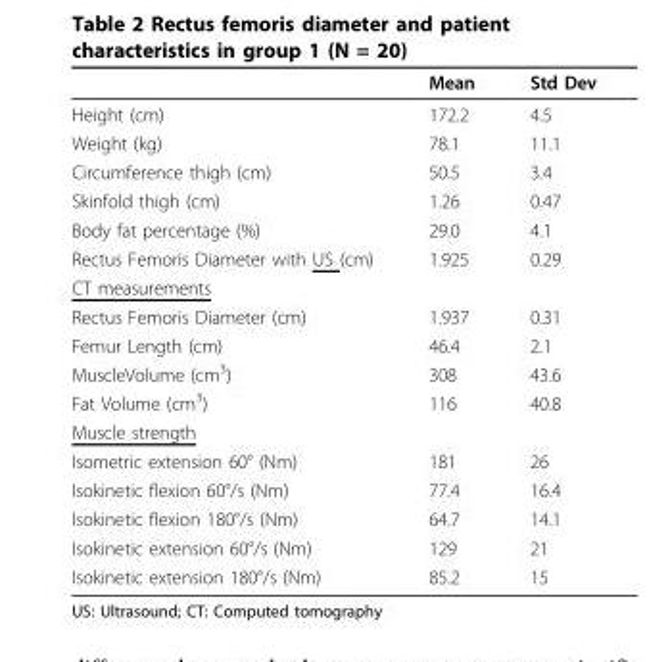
<table><thead><tr><td></td><td>Mean</td><td>Std Dev</td></tr></thead><tbody><tr><td>Height (cm)</td><td>172.2</td><td>4.5</td></tr><tr><td>Weight (kg)</td><td>78.1</td><td>11.1</td></tr><tr><td>Circumference thigh (cm)</td><td>50.5</td><td>3.4</td></tr><tr><td>Skinfold thigh (cm)</td><td>1.26</td><td>0.47</td></tr><tr><td>Body fat percentage (%)</td><td>29.0</td><td>4.1</td></tr><tr><td>Rectus Femoris Diameter with US (cm)</td><td>1.925</td><td>0.29</td></tr><tr><td colspan="3">CT measurements</td></tr><tr><td>Rectus Femoris Diameter (cm)</td><td>1.937</td><td>0.31</td></tr><tr><td>Femur Length (cm)</td><td>46.4</td><td>2.1</td></tr><tr><td>MuscleVolume (cm<sup>3</sup>)</td><td>308</td><td>43.6</td></tr><tr><td>Fat Volume (cm<sup>3</sup>)</td><td>116</td><td>40.8</td></tr><tr><td colspan="3">Muscle strength</td></tr><tr><td>Isometric extension 60° (Nm)</td><td>181</td><td>26</td></tr><tr><td>Isokinetic flexion 60°/s (Nm)</td><td>77.4</td><td>16.4</td></tr><tr><td>Isokinetic flexion 180°/s (Nm)</td><td>64.7</td><td>14.1</td></tr><tr><td>Isokinetic extension 60°/s (Nm)</td><td>129</td><td>21</td></tr><tr><td>Isokinetic extension 180°/s (Nm)</td><td>85.2</td><td>15</td></tr></tbody></table>